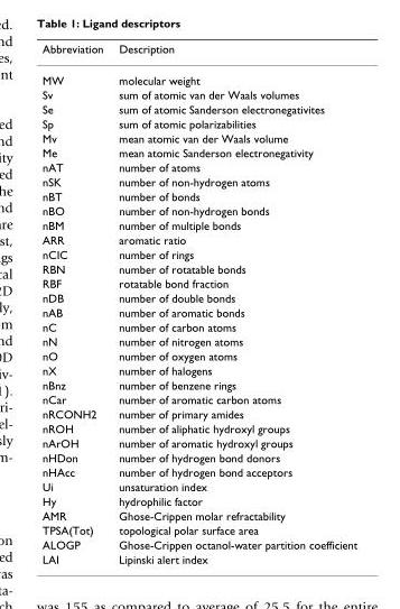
<table><thead><tr><td>Abbreviation</td><td>Description</td></tr></thead><tbody><tr><td>MW</td><td>molecular weight</td></tr><tr><td>Sv</td><td>sum of atomic van der Waals volumes</td></tr><tr><td>Se</td><td>sum of atomic Sanderson electronegativites</td></tr><tr><td>Sp</td><td>sum of atomic polarizabilities</td></tr><tr><td>Mv</td><td>mean atomic van der Waals volume</td></tr><tr><td>Me</td><td>mean atomic Sanderson electronegativity</td></tr><tr><td>nAT</td><td>number of atoms</td></tr><tr><td>nSK</td><td>number of non-hydrogen atoms</td></tr><tr><td>nBT</td><td>number of bonds</td></tr><tr><td>nBO</td><td>number of non-hydrogen bonds</td></tr><tr><td>nBM</td><td>number of multiple bonds</td></tr><tr><td>ARR</td><td>aromatic ratio</td></tr><tr><td>nCIC</td><td>number of rings</td></tr><tr><td>RBN</td><td>number of rotatable bonds</td></tr><tr><td>RBF</td><td>rotatable bond fraction</td></tr><tr><td>nDB</td><td>number of double bonds</td></tr><tr><td>nAB</td><td>number of aromatic bonds</td></tr><tr><td>nC</td><td>number of carbon atoms</td></tr><tr><td>nN</td><td>number of nitrogen atoms</td></tr><tr><td>nO</td><td>number of oxygen atoms</td></tr><tr><td>nX</td><td>number of halogens</td></tr><tr><td>nBnz</td><td>number of benzene rings</td></tr><tr><td>nCar</td><td>number of aromatic carbon atoms</td></tr><tr><td>nRCONH2</td><td>number of primary amides</td></tr><tr><td>nROH</td><td>number of aliphatic hydroxyl groups</td></tr><tr><td>nArOH</td><td>number of aromatic hydroxyl groups</td></tr><tr><td>nHDon</td><td>number of hydrogen bond donors</td></tr><tr><td>nHAcc</td><td>number of hydrogen bond acceptors</td></tr><tr><td>Ui</td><td>unsaturation index</td></tr><tr><td>Hy</td><td>hydrophilic factor</td></tr><tr><td>AMR</td><td>Ghose-Crippen molar refractability</td></tr><tr><td>TPSA(Tot)</td><td>topological polar surface area</td></tr><tr><td>ALOGP</td><td>Ghose-Crippen octanol-water partition coefficient</td></tr><tr><td>LAI</td><td>Lipinski alert index</td></tr></tbody></table>